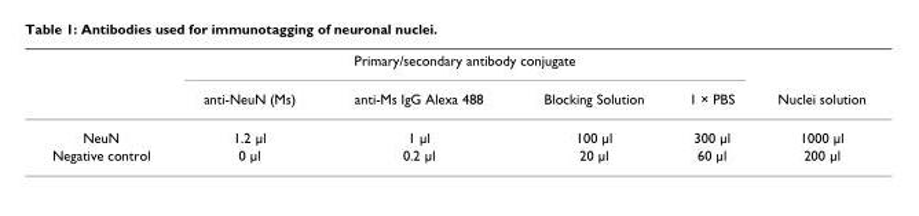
<table><thead><tr><td rowspan="2"></td><td colspan="4">Primary/secondary antibody conjugate</td><td rowspan="2">Nuclei solution</td></tr><tr><td>anti-NeuN (Ms)</td><td>anti-Ms IgG Alexa 488</td><td>Blocking Solution</td><td>1 × PBS</td></tr></thead><tbody><tr><td>NeuN</td><td>1.2 μl</td><td>1 μl</td><td>100 μl</td><td>300 μl</td><td>1000 μl</td></tr><tr><td>Negative control</td><td>0 μl</td><td>0.2 μl</td><td>20 μl</td><td>60 μl</td><td>200 μl</td></tr></tbody></table>